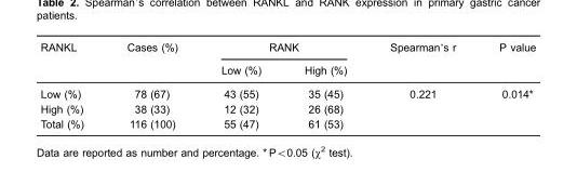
<table><thead><tr><td rowspan="2">RANKL</td><td rowspan="2">Cases (%)</td><td colspan="2">RANK</td><td rowspan="2">Spearman’s r</td><td rowspan="2">P value</td></tr><tr><td>Low (%)</td><td>High (%)</td></tr></thead><tbody><tr><td>Low (%)</td><td>78 (67)</td><td>43 (55)</td><td>35 (45)</td><td>0.221</td><td>0.014*</td></tr><tr><td>High (%)</td><td>38 (33)</td><td>12 (32)</td><td>26 (68)</td><td></td><td></td></tr><tr><td>Total (%)</td><td>116 (100)</td><td>55 (47)</td><td>61 (53)</td><td></td><td></td></tr></tbody></table>